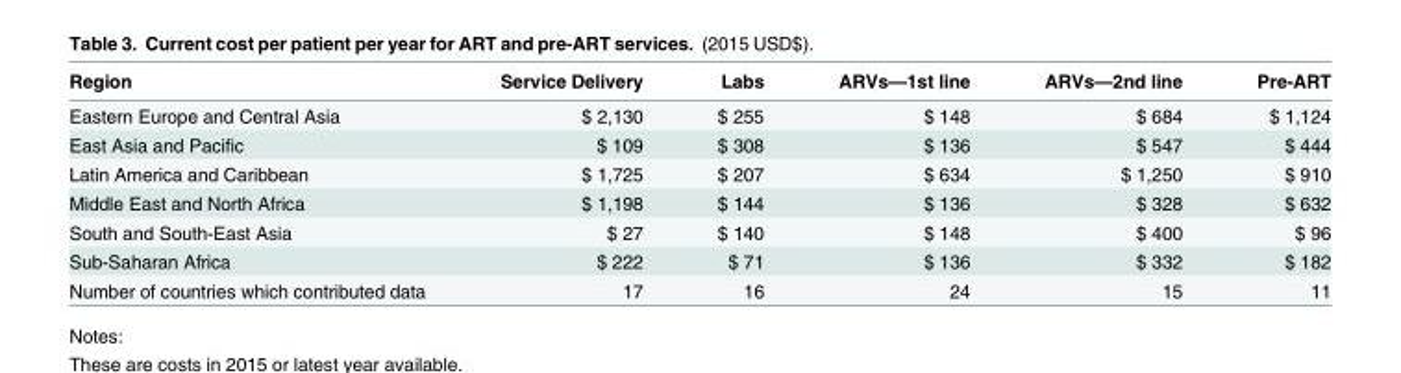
<table><thead><tr><td>Region</td><td>Service Delivery</td><td>Labs</td><td>ARVs—1st line</td><td>ARVs—2nd line</td><td>Pre-ART</td></tr></thead><tbody><tr><td>Eastern Europe and Central Asia</td><td>$ 2,130</td><td>$ 255</td><td>$ 148</td><td>$ 684</td><td>$ 1,124</td></tr><tr><td>East Asia and Pacific</td><td>$ 109</td><td>$ 308</td><td>$ 136</td><td>$ 547</td><td>$ 444</td></tr><tr><td>Latin America and Caribbean</td><td>$ 1,725</td><td>$ 207</td><td>$ 634</td><td>$ 1,250</td><td>$ 910</td></tr><tr><td>Middle East and North Africa</td><td>$ 1,198</td><td>$ 144</td><td>$ 136</td><td>$ 328</td><td>$ 632</td></tr><tr><td>South and South-East Asia</td><td>$ 27</td><td>$ 140</td><td>$ 148</td><td>$ 400</td><td>$ 96</td></tr><tr><td>Sub-Saharan Africa</td><td>$ 222</td><td>$ 71</td><td>$ 136</td><td>$ 332</td><td>$ 182</td></tr><tr><td>Number of countries which contributed data</td><td>17</td><td>16</td><td>24</td><td>15</td><td>11</td></tr></tbody></table>